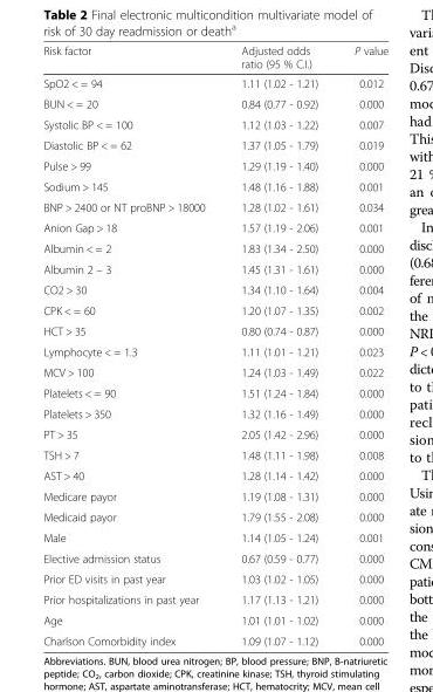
<table><thead><tr><td>Risk factor</td><td>Adjusted odds ratio (95 % C.I.)</td><td>P value</td></tr></thead><tbody><tr><td>SpO2 &lt; = 94</td><td>1.11 (1.02 - 1.21)</td><td>0.012</td></tr><tr><td>BUN &lt; = 20</td><td>0.84 (0.77 - 0.92)</td><td>0.000</td></tr><tr><td>Systolic BP &lt; = 100</td><td>1.12 (1.03 - 1.22)</td><td>0.007</td></tr><tr><td>Diastolic BP &lt; = 62</td><td>1.37 (1.05 - 1.79)</td><td>0.019</td></tr><tr><td>Pulse &gt; 99</td><td>1.29 (1.19 - 1.40)</td><td>0.000</td></tr><tr><td>Sodium &gt; 145</td><td>1.48 (1.16 - 1.88)</td><td>0.001</td></tr><tr><td>BNP &gt; 2400 or NT proBNP &gt; 18000</td><td>1.28 (1.02 - 1.61)</td><td>0.034</td></tr><tr><td>Anion Gap &gt; 18</td><td>1.57 (1.19 - 2.06)</td><td>0.001</td></tr><tr><td>Albumin &lt; = 2</td><td>1.83 (1.34 - 2.50)</td><td>0.000</td></tr><tr><td>Albumin 2 – 3</td><td>1.45 (1.31 - 1.61)</td><td>0.000</td></tr><tr><td>CO2 &gt; 30</td><td>1.34 (1.10 - 1.64)</td><td>0.004</td></tr><tr><td>CPK &lt; = 60</td><td>1.20 (1.07 - 1.35)</td><td>0.002</td></tr><tr><td>HCT &gt; 35</td><td>0.80 (0.74 - 0.87)</td><td>0.000</td></tr><tr><td>Lymphocyte &lt; = 1.3</td><td>1.11 (1.01 - 1.21)</td><td>0.023</td></tr><tr><td>MCV &gt; 100</td><td>1.24 (1.03 - 1.49)</td><td>0.022</td></tr><tr><td>Platelets &lt; = 90</td><td>1.51 (1.24 - 1.84)</td><td>0.000</td></tr><tr><td>Platelets &gt; 350</td><td>1.32 (1.16 - 1.49)</td><td>0.000</td></tr><tr><td>PT &gt; 35</td><td>2.05 (1.42 - 2.96)</td><td>0.000</td></tr><tr><td>TSH &gt; 7</td><td>1.48 (1.11 - 1.98)</td><td>0.008</td></tr><tr><td>AST &gt; 40</td><td>1.28 (1.14 - 1.42)</td><td>0.000</td></tr><tr><td>Medicare payor</td><td>1.19 (1.08 - 1.31)</td><td>0.000</td></tr><tr><td>Medicaid payor</td><td>1.79 (1.55 - 2.08)</td><td>0.000</td></tr><tr><td>Male</td><td>1.14 (1.05 - 1.24)</td><td>0.001</td></tr><tr><td>Elective admission status</td><td>0.67 (0.59 - 0.77)</td><td>0.000</td></tr><tr><td>Prior ED visits in past year</td><td>1.03 (1.02 - 1.05)</td><td>0.000</td></tr><tr><td>Prior hospitalizations in past year</td><td>1.17 (1.13 - 1.21)</td><td>0.000</td></tr><tr><td>Age</td><td>1.01 (1.01 - 1.02)</td><td>0.000</td></tr><tr><td>Charlson Comorbidity index</td><td>1.09 (1.07 - 1.12)</td><td>0.000</td></tr></tbody></table>